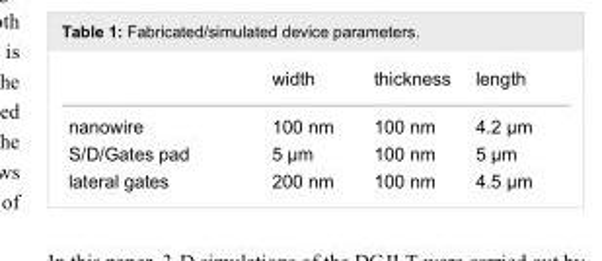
<table><thead><tr><td></td><td>width</td><td>thickness</td><td>length</td></tr></thead><tbody><tr><td>nanowire</td><td>100 nm</td><td>100 nm</td><td>4.2 µm</td></tr><tr><td>S/D/Gates pad</td><td>5 µm</td><td>100 nm</td><td>5 µm</td></tr><tr><td>lateral gates</td><td>200 nm</td><td>100 nm</td><td>4.5 µm</td></tr></tbody></table>